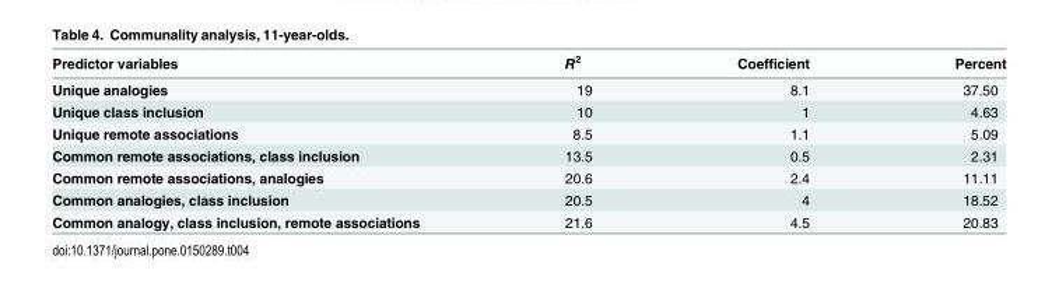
<table><thead><tr><td>Predictor variables</td><td>R<sup>2</sup></td><td>Coefficient</td><td>Percent</td></tr></thead><tbody><tr><td>Unique analogies</td><td>19</td><td>8.1</td><td>37.50</td></tr><tr><td>Unique class inclusion</td><td>10</td><td>1</td><td>4.63</td></tr><tr><td>Unique remote associations</td><td>8.5</td><td>1.1</td><td>5.09</td></tr><tr><td>Common remote associations, class inclusion</td><td>13.5</td><td>0.5</td><td>2.31</td></tr><tr><td>Common remote associations, analogies</td><td>20.6</td><td>2.4</td><td>11.11</td></tr><tr><td>Common analogies, class inclusion</td><td>20.5</td><td>4</td><td>18.52</td></tr><tr><td>Common analogy, class inclusion, remote associations</td><td>21.6</td><td>4.5</td><td>20.83</td></tr></tbody></table>